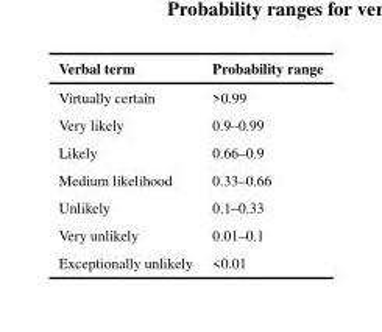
<table><thead><tr><td>Verbal term</td><td>Probability range</td></tr></thead><tbody><tr><td>Virtually certain</td><td>&gt;0.99</td></tr><tr><td>Very likely</td><td>0.9–0.99</td></tr><tr><td>Likely</td><td>0.66–0.9</td></tr><tr><td>Medium likelihood</td><td>0.33–0.66</td></tr><tr><td>Unlikely</td><td>0.1–0.33</td></tr><tr><td>Very unlikely</td><td>0.01–0.1</td></tr><tr><td>Exceptionally unlikely</td><td>&lt;0.01</td></tr></tbody></table>